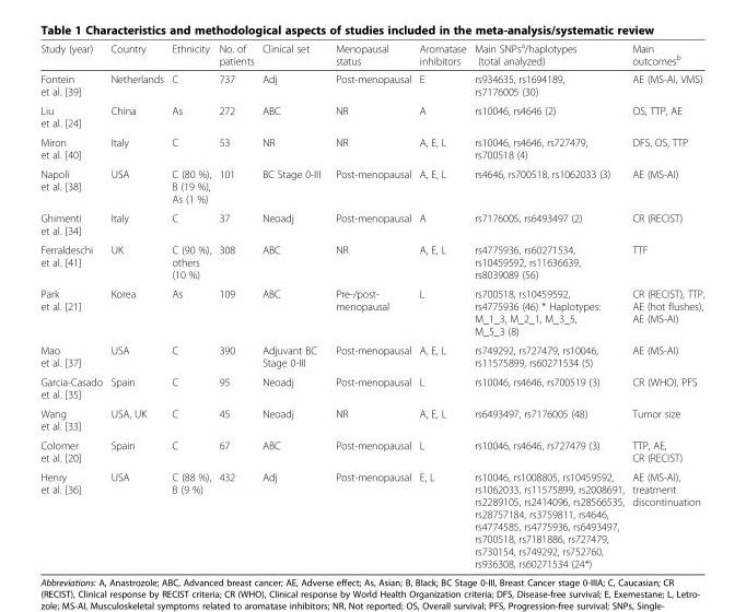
<table><thead><tr><td>Study (year)</td><td>Country</td><td>Ethnicity</td><td>No. of patients</td><td>Clinical set</td><td>Menopausal status</td><td>Aromatase inhibitors</td><td>Main SNPs<sup>a</sup>/haplotypes (total analyzed)</td><td>Main outcomes<sup>b</sup></td></tr></thead><tbody><tr><td>Fontein et al. [39]</td><td>Netherlands</td><td>C</td><td>737</td><td>Adj</td><td>Post-menopausal</td><td>E</td><td>rs934635, rs1694189, rs7176005 (30)</td><td>AE (MS-AI, VMS)</td></tr><tr><td>Liu et al. [24]</td><td>China</td><td>As</td><td>272</td><td>ABC</td><td>NR</td><td>A</td><td>rs10046, rs4646 (2)</td><td>OS, TTP, AE</td></tr><tr><td>Miron et al. [40]</td><td>Italy</td><td>C</td><td>53</td><td>NR</td><td>NR</td><td>A, E, L</td><td>rs10046, rs4646, rs727479, rs700518 (4)</td><td>DFS, OS, TTP</td></tr><tr><td>Napoli et al. [38]</td><td>USA</td><td>C (80 %), B (19 %), As (1 %)</td><td>101</td><td>BC Stage 0-III</td><td>Post-menopausal</td><td>A, E, L</td><td>rs4646, rs700518, rs1062033 (3)</td><td>AE (MS-AI)</td></tr><tr><td>Ghimenti et al. [34]</td><td>Italy</td><td>C</td><td>37</td><td>Neoadj</td><td>Post-menopausal</td><td>A</td><td>rs7176005, rs6493497 (2)</td><td>CR (RECIST)</td></tr><tr><td>Ferraldeschi et al. [41]</td><td>UK</td><td>C (90 %), others (10 %)</td><td>308</td><td>ABC</td><td>NR</td><td>A, E, L</td><td>rs4775936, rs60271534, rs10459592, rs11636639, rs8039089 (56)</td><td>TTF</td></tr><tr><td>Park et al. [21]</td><td>Korea</td><td>As</td><td>109</td><td>ABC</td><td>Pre-/post- menopausal</td><td>L</td><td>rs700518, rs10459592, rs4775936 (46) * Haplotypes: M_1_3, M_2_1, M_3_5, M_5_3 (8)</td><td>CR (RECIST), TTP, AE (hot flushes), AE (MS-AI)</td></tr><tr><td>Mao et al. [37]</td><td>USA</td><td>C</td><td>390</td><td>Adjuvant BC Stage 0-III</td><td>Post-menopausal</td><td>A, E, L</td><td>rs749292, rs727479, rs10046, rs11575899, rs60271534 (5)</td><td>AE (MS-AI)</td></tr><tr><td>Garcia-Casado et al. [35]</td><td>Spain</td><td>C</td><td>95</td><td>Neoadj</td><td>Post-menopausal</td><td>L</td><td>rs10046, rs4646, rs700519 (3)</td><td>CR (WHO), PFS</td></tr><tr><td>Wang et al. [33]</td><td>USA, UK</td><td>C</td><td>45</td><td>Neoadj</td><td>NR</td><td>A, E, L</td><td>rs6493497, rs7176005 (48)</td><td>Tumor size</td></tr><tr><td>Colomer et al. [20]</td><td>Spain</td><td>C</td><td>67</td><td>ABC</td><td>Post-menopausal</td><td>L</td><td>rs10046, rs4646, rs727479 (3)</td><td>TTP, AE, CR (RECIST)</td></tr><tr><td>Henry et al. [36]</td><td>USA</td><td>C (88 %), B (9 %)</td><td>432</td><td>Adj</td><td>Post-menopausal</td><td>E, L</td><td>rs10046, rs1008805, rs10459592, rs1062033, rs11575899, rs2008691, rs2289105, rs2414096, rs28566535, rs28757184, rs3759811, rs4646, rs4774585, rs4775936, rs6493497, rs700518, rs7181886, rs727479, rs730154, rs749292, rs752760, rs936308, rs60271534 (24*)</td><td>AE (MS-AI), treatment discontinuation</td></tr></tbody></table>